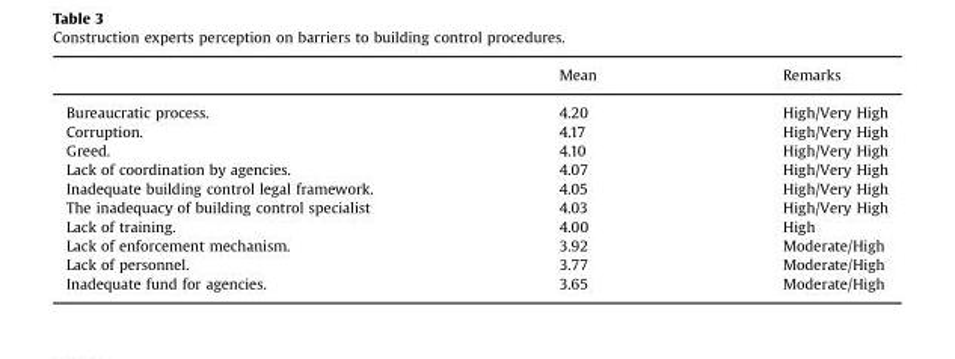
<table><thead><tr><td></td><td>Mean</td><td>Remarks</td></tr></thead><tbody><tr><td>Bureaucratic process.</td><td>4.20</td><td>High/Very High</td></tr><tr><td>Corruption.</td><td>4.17</td><td>High/Very High</td></tr><tr><td>Greed.</td><td>4.10</td><td>High/Very High</td></tr><tr><td>Lack of coordination by agencies.</td><td>4.07</td><td>High/Very High</td></tr><tr><td>Inadequate building control legal framework.</td><td>4.05</td><td>High/Very High</td></tr><tr><td>The inadequacy of building control specialist</td><td>4.03</td><td>High/Very High</td></tr><tr><td>Lack of training.</td><td>4.00</td><td>High</td></tr><tr><td>Lack of enforcement mechanism.</td><td>3.92</td><td>Moderate/High</td></tr><tr><td>Lack of personnel.</td><td>3.77</td><td>Moderate/High</td></tr><tr><td>Inadequate fund for agencies.</td><td>3.65</td><td>Moderate/High</td></tr></tbody></table>